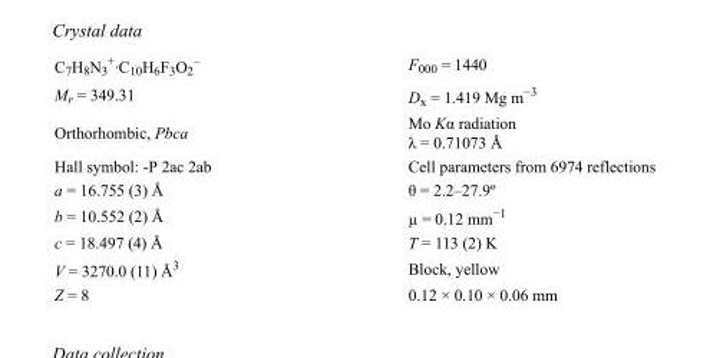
<table><tbody><tr><td>C<sub>7</sub>H<sub>8</sub>N<sub>3</sub> <sup>+</sup>·C<sub>10</sub>H<sub>6</sub>F<sub>3</sub>O<sub>2</sub> <sup>–</sup></td><td>F<sub>000</sub> = 1440</td></tr><tr><td>M<sub>r</sub> = 349.31</td><td>D<sub>x</sub> = 1.419 Mg m<sup>−3</sup></td></tr><tr><td>Orthorhombic, Pbca</td><td>Mo Kα radiation λ = 0.71073 Å</td></tr><tr><td>Hall symbol: -P 2ac 2ab</td><td>Cell parameters from 6974 reflections</td></tr><tr><td>a = 16.755 (3) Å</td><td>θ = 2.2–27.9º</td></tr><tr><td>b = 10.552 (2) Å</td><td>µ = 0.12 mm<sup>−1</sup></td></tr><tr><td>c = 18.497 (4) Å</td><td>T = 113 (2) K</td></tr><tr><td>V = 3270.0 (11) Å<sup>3</sup></td><td>Block, yellow</td></tr><tr><td>Z = 8</td><td>0.12 × 0.10 × 0.06 mm</td></tr></tbody></table>